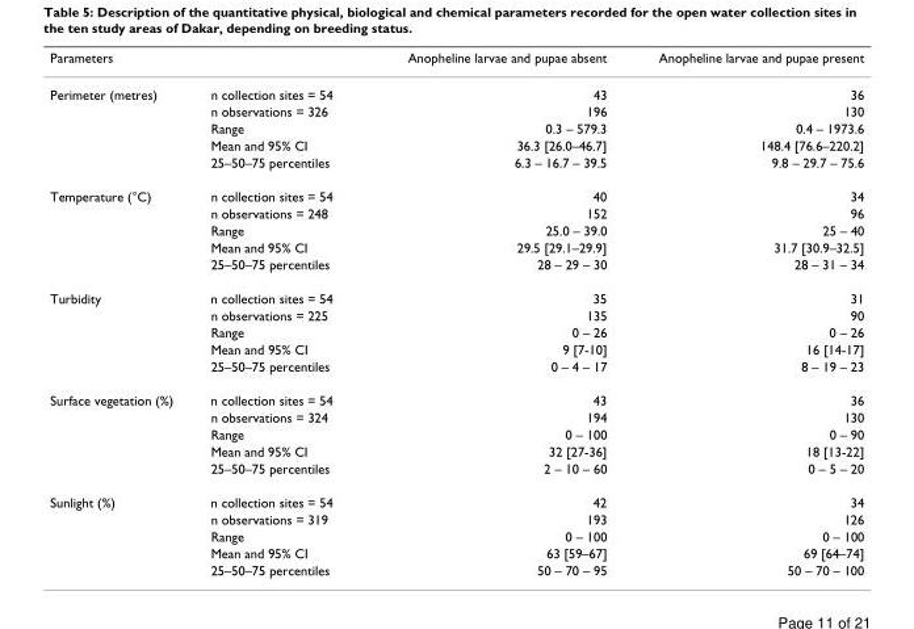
<table><thead><tr><td>Parameters</td><td></td><td>Anopheline larvae and pupae absent</td><td>Anopheline larvae and pupae present</td></tr></thead><tbody><tr><td rowspan="5">Perimeter (metres)</td><td>n collection sites = 54</td><td>43</td><td>36</td></tr><tr><td>n observations = 326</td><td>196</td><td>130</td></tr><tr><td>Range</td><td>0.3 – 579.3</td><td>0.4 – 1973.6</td></tr><tr><td>Mean and 95% CI</td><td>36.3 [26.0–46.7]</td><td>148.4 [76.6–220.2]</td></tr><tr><td>25–50–75 percentiles</td><td>6.3 – 16.7 – 39.5</td><td>9.8 – 29.7 – 75.6</td></tr><tr><td rowspan="5">Temperature (°C)</td><td>n collection sites = 54</td><td>40</td><td>34</td></tr><tr><td>n observations = 248</td><td>152</td><td>96</td></tr><tr><td>Range</td><td>25.0 – 39.0</td><td>25 – 40</td></tr><tr><td>Mean and 95% CI</td><td>29.5 [29.1–29.9]</td><td>31.7 [30.9–32.5]</td></tr><tr><td>25–50–75 percentiles</td><td>28 – 29 – 30</td><td>28 – 31 – 34</td></tr><tr><td rowspan="5">Turbidity</td><td>n collection sites = 54</td><td>35</td><td>31</td></tr><tr><td>n observations = 225</td><td>135</td><td>90</td></tr><tr><td>Range</td><td>0 – 26</td><td>0 – 26</td></tr><tr><td>Mean and 95% CI</td><td>9 [7-10]</td><td>16 [14-17]</td></tr><tr><td>25–50–75 percentiles</td><td>0 – 4 – 17</td><td>8 – 19 – 23</td></tr><tr><td rowspan="5">Surface vegetation (%)</td><td>n collection sites = 54</td><td>43</td><td>36</td></tr><tr><td>n observations = 324</td><td>194</td><td>130</td></tr><tr><td>Range</td><td>0 – 100</td><td>0 – 90</td></tr><tr><td>Mean and 95% CI</td><td>32 [27-36]</td><td>18 [13-22]</td></tr><tr><td>25–50–75 percentiles</td><td>2 – 10 – 60</td><td>0 – 5 – 20</td></tr><tr><td rowspan="5">Sunlight (%)</td><td>n collection sites = 54</td><td>42</td><td>34</td></tr><tr><td>n observations = 319</td><td>193</td><td>126</td></tr><tr><td>Range</td><td>0 – 100</td><td>0 – 100</td></tr><tr><td>Mean and 95% CI</td><td>63 [59–67]</td><td>69 [64–74]</td></tr><tr><td>25–50–75 percentiles</td><td>50 – 70 – 95</td><td>50 – 70 – 100</td></tr></tbody></table>